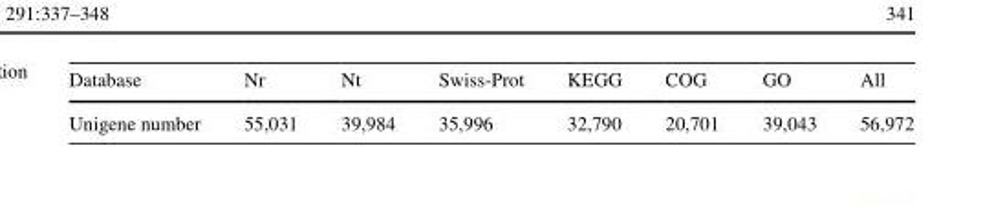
<table><thead><tr><td>Database</td><td>Nr</td><td>Nt</td><td>Swiss-Prot</td><td>KEGG</td><td>COG</td><td>GO</td><td>All</td></tr></thead><tbody><tr><td>Unigene number</td><td>55,031</td><td>39,984</td><td>35,996</td><td>32,790</td><td>20,701</td><td>39,043</td><td>56,972</td></tr></tbody></table>